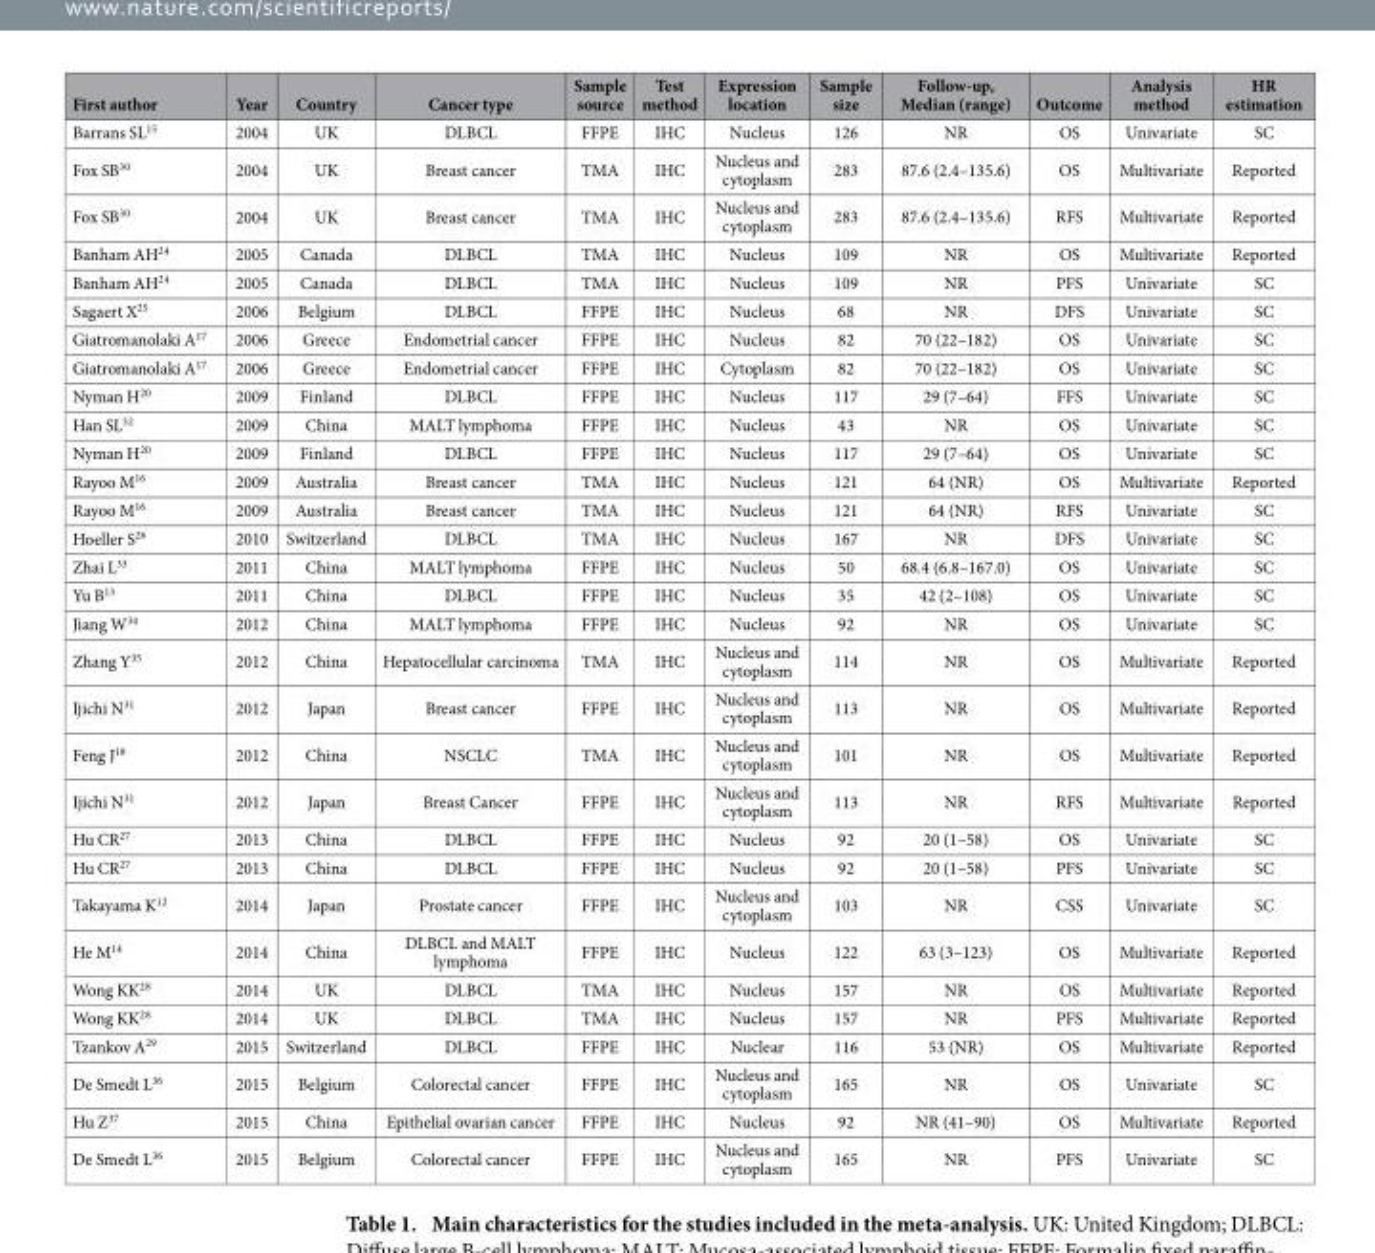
<table><thead><tr><td>First author</td><td>Year</td><td>Country</td><td>Cancer type</td><td>Sample source</td><td>Test method</td><td>Expression location</td><td>Sample size</td><td>Follow-up, Median (range)</td><td>Outcome</td><td>Analysis method</td><td>HR estimation</td></tr></thead><tbody><tr><td>Barrans SL<sup>15</sup></td><td>2004</td><td>UK</td><td>DLBCL</td><td>FFPE</td><td>IHC</td><td>Nucleus</td><td>126</td><td>NR</td><td>OS</td><td>Univariate</td><td>SC</td></tr><tr><td>Fox SB<sup>30</sup></td><td>2004</td><td>UK</td><td>Breast cancer</td><td>TMA</td><td>IHC</td><td>Nucleus and cytoplasm</td><td>283</td><td>87.6 (2.4–135.6)</td><td>OS</td><td>Multivariate</td><td>Reported</td></tr><tr><td>Fox SB<sup>30</sup></td><td>2004</td><td>UK</td><td>Breast cancer</td><td>TMA</td><td>IHC</td><td>Nucleus and cytoplasm</td><td>283</td><td>87.6 (2.4–135.6)</td><td>RFS</td><td>Multivariate</td><td>Reported</td></tr><tr><td>Banham AH<sup>24</sup></td><td>2005</td><td>Canada</td><td>DLBCL</td><td>TMA</td><td>IHC</td><td>Nucleus</td><td>109</td><td>NR</td><td>OS</td><td>Multivariate</td><td>Reported</td></tr><tr><td>Banham AH<sup>24</sup></td><td>2005</td><td>Canada</td><td>DLBCL</td><td>TMA</td><td>IHC</td><td>Nucleus</td><td>109</td><td>NR</td><td>PFS</td><td>Univariate</td><td>SC</td></tr><tr><td>Sagaert X<sup>25</sup></td><td>2006</td><td>Belgium</td><td>DLBCL</td><td>FFPE</td><td>IHC</td><td>Nucleus</td><td>68</td><td>NR</td><td>DFS</td><td>Univariate</td><td>SC</td></tr><tr><td>Giatromanolaki A<sup>17</sup></td><td>2006</td><td>Greece</td><td>Endometrial cancer</td><td>FFPE</td><td>IHC</td><td>Nucleus</td><td>82</td><td>70 (22–182)</td><td>OS</td><td>Univariate</td><td>SC</td></tr><tr><td>Giatromanolaki A<sup>17</sup></td><td>2006</td><td>Greece</td><td>Endometrial cancer</td><td>FFPE</td><td>IHC</td><td>Cytoplasm</td><td>82</td><td>70 (22–182)</td><td>OS</td><td>Univariate</td><td>SC</td></tr><tr><td>Nyman H<sup>20</sup></td><td>2009</td><td>Finland</td><td>DLBCL</td><td>FFPE</td><td>IHC</td><td>Nucleus</td><td>117</td><td>29 (7–64)</td><td>FFS</td><td>Univariate</td><td>SC</td></tr><tr><td>Han SL<sup>32</sup></td><td>2009</td><td>China</td><td>MALT lymphoma</td><td>FFPE</td><td>IHC</td><td>Nucleus</td><td>43</td><td>NR</td><td>OS</td><td>Univariate</td><td>SC</td></tr><tr><td>Nyman H<sup>20</sup></td><td>2009</td><td>Finland</td><td>DLBCL</td><td>FFPE</td><td>IHC</td><td>Nucleus</td><td>117</td><td>29 (7–64)</td><td>OS</td><td>Univariate</td><td>SC</td></tr><tr><td>Rayoo M<sup>16</sup></td><td>2009</td><td>Australia</td><td>Breast cancer</td><td>TMA</td><td>IHC</td><td>Nucleus</td><td>121</td><td>64 (NR)</td><td>OS</td><td>Multivariate</td><td>Reported</td></tr><tr><td>Rayoo M<sup>16</sup></td><td>2009</td><td>Australia</td><td>Breast cancer</td><td>TMA</td><td>IHC</td><td>Nucleus</td><td>121</td><td>64 (NR)</td><td>RFS</td><td>Univariate</td><td>SC</td></tr><tr><td>Hoeller S<sup>26</sup></td><td>2010</td><td>Switzerland</td><td>DLBCL</td><td>TMA</td><td>IHC</td><td>Nucleus</td><td>167</td><td>NR</td><td>DFS</td><td>Univariate</td><td>SC</td></tr><tr><td>Zhai L<sup>33</sup></td><td>2011</td><td>China</td><td>MALT lymphoma</td><td>FFPE</td><td>IHC</td><td>Nucleus</td><td>50</td><td>68.4 (6.8–167.0)</td><td>OS</td><td>Univariate</td><td>SC</td></tr><tr><td>Yu B<sup>13</sup></td><td>2011</td><td>China</td><td>DLBCL</td><td>FFPE</td><td>IHC</td><td>Nucleus</td><td>35</td><td>42 (2–108)</td><td>OS</td><td>Univariate</td><td>SC</td></tr><tr><td>Jiang W<sup>34</sup></td><td>2012</td><td>China</td><td>MALT lymphoma</td><td>FFPE</td><td>IHC</td><td>Nucleus</td><td>92</td><td>NR</td><td>OS</td><td>Univariate</td><td>SC</td></tr><tr><td>Zhang Y<sup>35</sup></td><td>2012</td><td>China</td><td>Hepatocellular carcinoma</td><td>TMA</td><td>IHC</td><td>Nucleus and cytoplasm</td><td>114</td><td>NR</td><td>OS</td><td>Multivariate</td><td>Reported</td></tr><tr><td>Ijichi N<sup>31</sup></td><td>2012</td><td>Japan</td><td>Breast cancer</td><td>FFPE</td><td>IHC</td><td>Nucleus and cytoplasm</td><td>113</td><td>NR</td><td>OS</td><td>Multivariate</td><td>Reported</td></tr><tr><td>Feng J<sup>18</sup></td><td>2012</td><td>China</td><td>NSCLC</td><td>TMA</td><td>IHC</td><td>Nucleus and cytoplasm</td><td>101</td><td>NR</td><td>OS</td><td>Multivariate</td><td>Reported</td></tr><tr><td>Ijichi N<sup>31</sup></td><td>2012</td><td>Japan</td><td>Breast Cancer</td><td>FFPE</td><td>IHC</td><td>Nucleus and cytoplasm</td><td>113</td><td>NR</td><td>RFS</td><td>Multivariate</td><td>Reported</td></tr><tr><td>Hu CR<sup>27</sup></td><td>2013</td><td>China</td><td>DLBCL</td><td>FFPE</td><td>IHC</td><td>Nucleus</td><td>92</td><td>20 (1–58)</td><td>OS</td><td>Univariate</td><td>SC</td></tr><tr><td>Hu CR<sup>27</sup></td><td>2013</td><td>China</td><td>DLBCL</td><td>FFPE</td><td>IHC</td><td>Nucleus</td><td>92</td><td>20 (1–58)</td><td>PFS</td><td>Univariate</td><td>SC</td></tr><tr><td>Takayama K<sup>12</sup></td><td>2014</td><td>Japan</td><td>Prostate cancer</td><td>FFPE</td><td>IHC</td><td>Nucleus and cytoplasm</td><td>103</td><td>NR</td><td>CSS</td><td>Univariate</td><td>SC</td></tr><tr><td>He M<sup>14</sup></td><td>2014</td><td>China</td><td>DLBCL and MALT lymphoma</td><td>FFPE</td><td>IHC</td><td>Nucleus</td><td>122</td><td>63 (3–123)</td><td>OS</td><td>Multivariate</td><td>Reported</td></tr><tr><td>Wong KK<sup>28</sup></td><td>2014</td><td>UK</td><td>DLBCL</td><td>TMA</td><td>IHC</td><td>Nucleus</td><td>157</td><td>NR</td><td>OS</td><td>Multivariate</td><td>Reported</td></tr><tr><td>Wong KK<sup>28</sup></td><td>2014</td><td>UK</td><td>DLBCL</td><td>TMA</td><td>IHC</td><td>Nucleus</td><td>157</td><td>NR</td><td>PFS</td><td>Multivariate</td><td>Reported</td></tr><tr><td>Tzankov A<sup>29</sup></td><td>2015</td><td>Switzerland</td><td>DLBCL</td><td>FFPE</td><td>IHC</td><td>Nuclear</td><td>116</td><td>53 (NR)</td><td>OS</td><td>Multivariate</td><td>Reported</td></tr><tr><td>De Smedt L<sup>36</sup></td><td>2015</td><td>Belgium</td><td>Colorectal cancer</td><td>FFPE</td><td>IHC</td><td>Nucleus and cytoplasm</td><td>165</td><td>NR</td><td>OS</td><td>Univariate</td><td>SC</td></tr><tr><td>Hu Z<sup>37</sup></td><td>2015</td><td>China</td><td>Epithelial ovarian cancer</td><td>FFPE</td><td>IHC</td><td>Nucleus</td><td>92</td><td>NR (41–90)</td><td>OS</td><td>Multivariate</td><td>Reported</td></tr><tr><td>De Smedt L<sup>36</sup></td><td>2015</td><td>Belgium</td><td>Colorectal cancer</td><td>FFPE</td><td>IHC</td><td>Nucleus and cytoplasm</td><td>165</td><td>NR</td><td>PFS</td><td>Univariate</td><td>SC</td></tr></tbody></table>